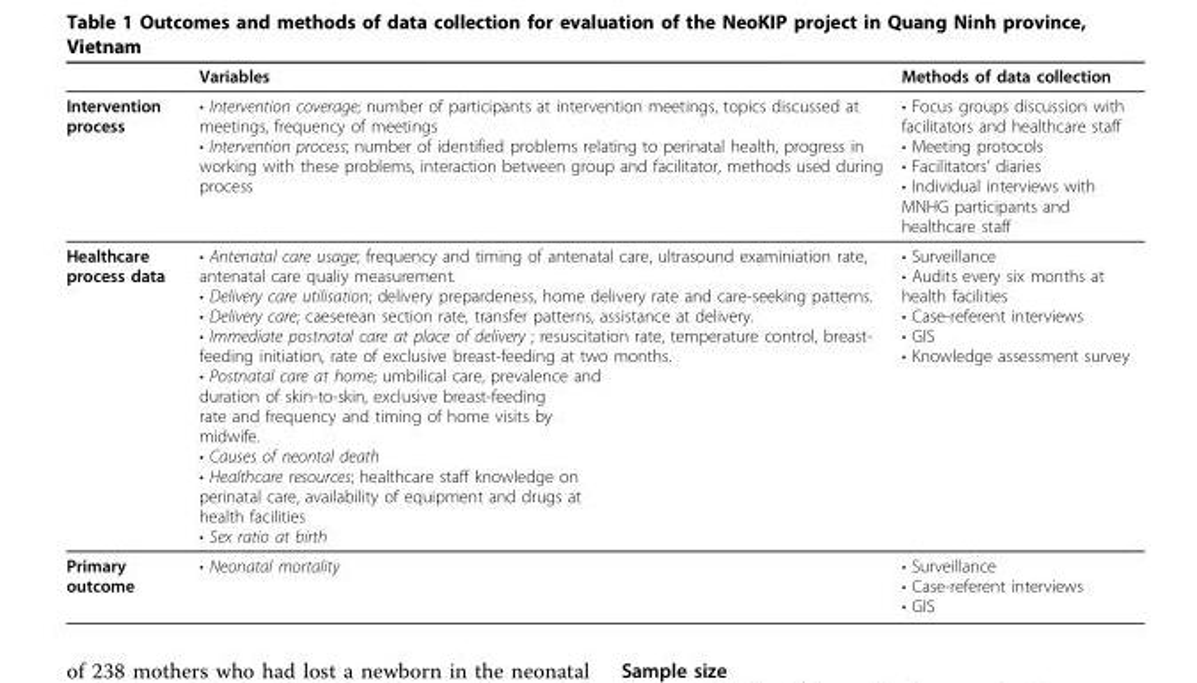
<table><thead><tr><td></td><td>Variables</td><td>Methods of data collection</td></tr></thead><tbody><tr><td>Intervention process</td><td>• Intervention coverage; number of participants at intervention meetings, topics discussed at meetings, frequency of meetings • Intervention process; number of identified problems relating to perinatal health, progress in working with these problems, interaction between group and facilitator, methods used during process</td><td>• Focus groups discussion with facilitators and healthcare staff • Meeting protocols • Facilitators’ diaries • Individual interviews with MNHG participants and healthcare staff</td></tr><tr><td>Healthcare process data</td><td>• Antenatal care usage; frequency and timing of antenatal care, ultrasound examiniation rate, antenatal care qualiy measurement. • Delivery care utilisation; delivery prepardeness, home delivery rate and care-seeking patterns. • Delivery care; caeserean section rate, transfer patterns, assistance at delivery. • Immediate postnatal care at place of delivery ; resuscitation rate, temperature control, breast- feeding initiation, rate of exclusive breast-feeding at two months. • Postnatal care at home; umbilical care, prevalence and duration of skin-to-skin, exclusive breast-feeding rate and frequency and timing of home visits by midwife. • Causes of neontal death • Healthcare resources; healthcare staff knowledge on perinatal care, availability of equipment and drugs at health facilities • Sex ratio at birth</td><td>• Surveillance • Audits every six months at health facilities • Case-referent interviews • GIS • Knowledge assessment survey</td></tr><tr><td>Primary outcome</td><td>• Neonatal mortality</td><td>• Surveillance • Case-referent interviews • GIS</td></tr></tbody></table>